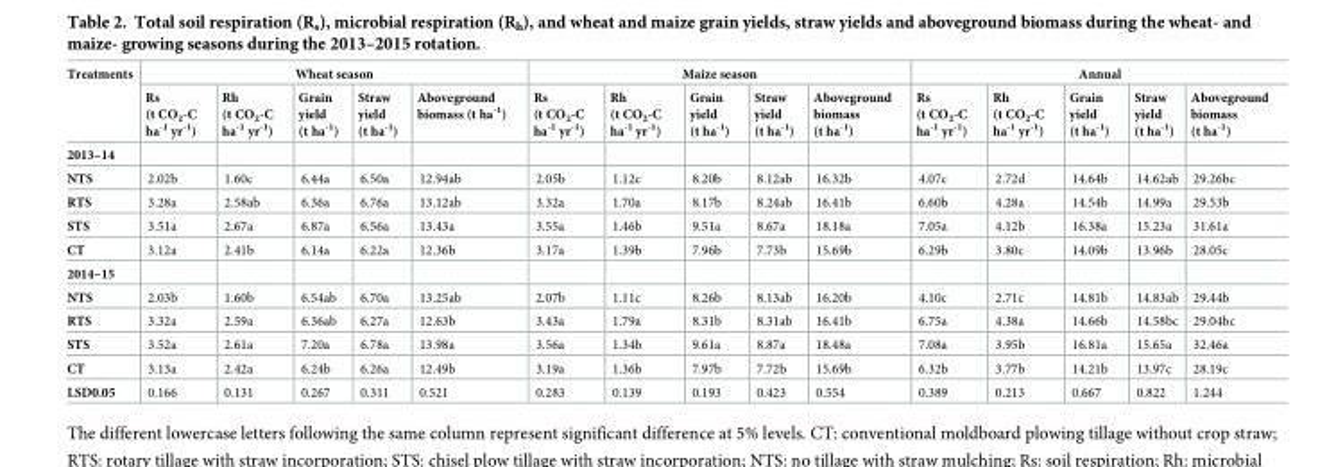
<table><thead><tr><td rowspan="2">Treatments</td><td colspan="5">Wheat season</td><td colspan="5">Maize season</td><td colspan="5">Annual</td></tr><tr><td>Rs (t CO<sub>2</sub>-C ha<sup>-1</sup> yr<sup>-1</sup>)</td><td>Rh (t CO<sub>2</sub>-C ha<sup>-1</sup> yr<sup>-1</sup>)</td><td>Grain yield (t ha<sup>-1</sup>)</td><td>Straw yield (t ha<sup>-1</sup>)</td><td>Aboveground biomass (t ha<sup>-1</sup>)</td><td>Rs (t CO<sub>2</sub>-C ha<sup>-1</sup> yr<sup>-1</sup>)</td><td>Rh (t CO<sub>2</sub>-C ha<sup>-1</sup> yr<sup>-1</sup>)</td><td>Grain yield (t ha<sup>-1</sup>)</td><td>Straw yield (t ha<sup>-1</sup>)</td><td>Aboveground biomass (t ha<sup>-1</sup>)</td><td>Rs (t CO<sub>2</sub>-C ha<sup>-1</sup> yr<sup>-1</sup>)</td><td>Rh (t CO<sub>2</sub>-C ha<sup>-1</sup> yr<sup>-1</sup>)</td><td>Grain yield (t ha<sup>-1</sup>)</td><td>Straw yield (t ha<sup>-1</sup>)</td><td>Aboveground biomass (t ha<sup>-1</sup>)</td></tr></thead><tbody><tr><td colspan="16">2013–14</td></tr><tr><td>NTS</td><td>2.02b</td><td>1.60c</td><td>6.44a</td><td>6.50a</td><td>12.94ab</td><td>2.05b</td><td>1.12c</td><td>8.20b</td><td>8.12ab</td><td>16.32b</td><td>4.07c</td><td>2.72d</td><td>14.64b</td><td>14.62ab</td><td>29.26bc</td></tr><tr><td>RTS</td><td>3.28a</td><td>2.58ab</td><td>6.36a</td><td>6.76a</td><td>13.12ab</td><td>3.32a</td><td>1.70a</td><td>8.17b</td><td>8.24ab</td><td>16.41b</td><td>6.60b</td><td>4.28a</td><td>14.54b</td><td>14.99a</td><td>29.53b</td></tr><tr><td>STS</td><td>3.51a</td><td>2.67a</td><td>6.87a</td><td>6.56a</td><td>13.43a</td><td>3.55a</td><td>1.46b</td><td>9.51a</td><td>8.67a</td><td>18.18a</td><td>7.05a</td><td>4.12b</td><td>16.38a</td><td>15.23a</td><td>31.61a</td></tr><tr><td>CT</td><td>3.12a</td><td>2.41b</td><td>6.14a</td><td>6.22a</td><td>12.36b</td><td>3.17a</td><td>1.39b</td><td>7.96b</td><td>7.73b</td><td>15.69b</td><td>6.29b</td><td>3.80c</td><td>14.09b</td><td>13.96b</td><td>28.05c</td></tr><tr><td colspan="16">2014–15</td></tr><tr><td>NTS</td><td>2.03b</td><td>1.60b</td><td>6.54ab</td><td>6.70a</td><td>13.25ab</td><td>2.07b</td><td>1.11c</td><td>8.26b</td><td>8.13ab</td><td>16.20b</td><td>4.10c</td><td>2.71c</td><td>14.81b</td><td>14.83ab</td><td>29.44b</td></tr><tr><td>RTS</td><td>3.32a</td><td>2.59a</td><td>6.36ab</td><td>6.27a</td><td>12.63b</td><td>3.43a</td><td>1.79a</td><td>8.31b</td><td>8.31ab</td><td>16.41b</td><td>6.75a</td><td>4.38a</td><td>14.66b</td><td>14.58bc</td><td>29.04bc</td></tr><tr><td>STS</td><td>3.52a</td><td>2.61a</td><td>7.20a</td><td>6.78a</td><td>13.98a</td><td>3.56a</td><td>1.34b</td><td>9.61a</td><td>8.87a</td><td>18.48a</td><td>7.08a</td><td>3.95b</td><td>16.81a</td><td>15.65a</td><td>32.46a</td></tr><tr><td>CT</td><td>3.13a</td><td>2.42a</td><td>6.24b</td><td>6.26a</td><td>12.49b</td><td>3.19a</td><td>1.36b</td><td>7.97b</td><td>7.72b</td><td>15.69b</td><td>6.32b</td><td>3.77b</td><td>14.21b</td><td>13.97c</td><td>28.19c</td></tr><tr><td>LSD0.05</td><td>0.166</td><td>0.131</td><td>0.267</td><td>0.311</td><td>0.521</td><td>0.283</td><td>0.139</td><td>0.193</td><td>0.423</td><td>0.554</td><td>0.389</td><td>0.213</td><td>0.667</td><td>0.822</td><td>1.244</td></tr></tbody></table>